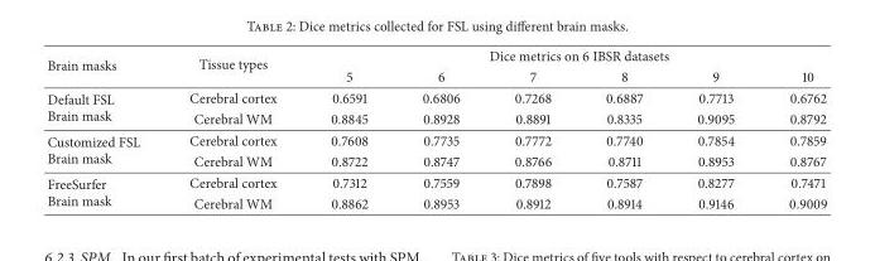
<table><thead><tr><td rowspan="2">Brain masks</td><td rowspan="2">Tissue types</td><td colspan="6">Dice metrics on 6 IBSR datasets</td></tr><tr><td>5</td><td>6</td><td>7</td><td>8</td><td>9</td><td>10</td></tr></thead><tbody><tr><td rowspan="2">Default FSL Brain mask</td><td>Cerebral cortex</td><td>0.6591</td><td>0.6806</td><td>0.7268</td><td>0.6887</td><td>0.7713</td><td>0.6762</td></tr><tr><td>Cerebral WM</td><td>0.8845</td><td>0.8928</td><td>0.8891</td><td>0.8335</td><td>0.9095</td><td>0.8792</td></tr><tr><td rowspan="2">Customized FSL Brain mask</td><td>Cerebral cortex</td><td>0.7608</td><td>0.7735</td><td>0.7772</td><td>0.7740</td><td>0.7854</td><td>0.7859</td></tr><tr><td>Cerebral WM</td><td>0.8722</td><td>0.8747</td><td>0.8766</td><td>0.8711</td><td>0.8953</td><td>0.8767</td></tr><tr><td rowspan="2">FreeSurfer Brain mask</td><td>Cerebral cortex</td><td>0.7312</td><td>0.7559</td><td>0.7898</td><td>0.7587</td><td>0.8277</td><td>0.7471</td></tr><tr><td>Cerebral WM</td><td>0.8862</td><td>0.8953</td><td>0.8912</td><td>0.8914</td><td>0.9146</td><td>0.9009</td></tr></tbody></table>